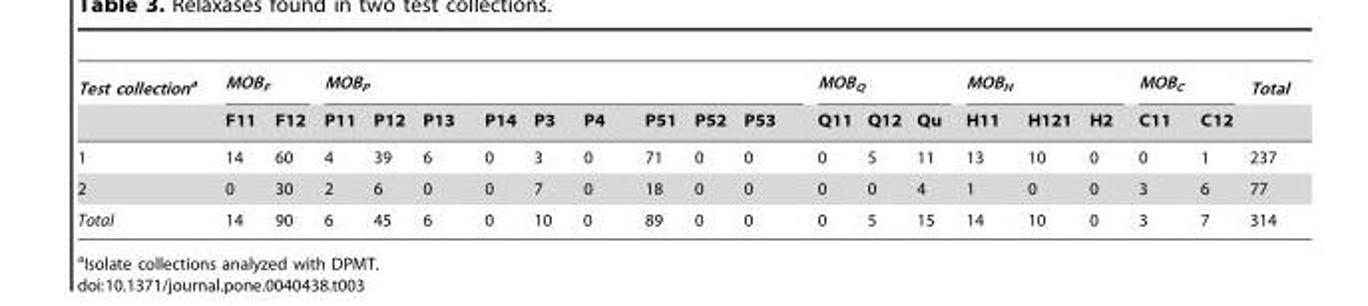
<table><thead><tr><td rowspan="2">Test collectiona</td><td colspan="2">MOB<sub>F</sub></td><td colspan="9">MOB<sub>P</sub></td><td colspan="3">MOB<sub>Q</sub></td><td colspan="3">MOB<sub>H</sub></td><td colspan="2">MOB<sub>C</sub></td><td rowspan="2">Total</td></tr><tr><td>F11</td><td>F12</td><td>P11</td><td>P12</td><td>P13</td><td>P14</td><td>P3</td><td>P4</td><td>P51</td><td>P52</td><td>P53</td><td>Q11</td><td>Q12</td><td>Qu</td><td>H11</td><td>H121</td><td>H2</td><td>C11</td><td>C12</td></tr></thead><tbody><tr><td>1</td><td>14</td><td>60</td><td>4</td><td>39</td><td>6</td><td>0</td><td>3</td><td>0</td><td>71</td><td>0</td><td>0</td><td>0</td><td>5</td><td>11</td><td>13</td><td>10</td><td>0</td><td>0</td><td>1</td><td>237</td></tr><tr><td>2</td><td>0</td><td>30</td><td>2</td><td>6</td><td>0</td><td>0</td><td>7</td><td>0</td><td>18</td><td>0</td><td>0</td><td>0</td><td>0</td><td>4</td><td>1</td><td>0</td><td>0</td><td>3</td><td>6</td><td>77</td></tr><tr><td>Total</td><td>14</td><td>90</td><td>6</td><td>45</td><td>6</td><td>0</td><td>10</td><td>0</td><td>89</td><td>0</td><td>0</td><td>0</td><td>5</td><td>15</td><td>14</td><td>10</td><td>0</td><td>3</td><td>7</td><td>314</td></tr></tbody></table>